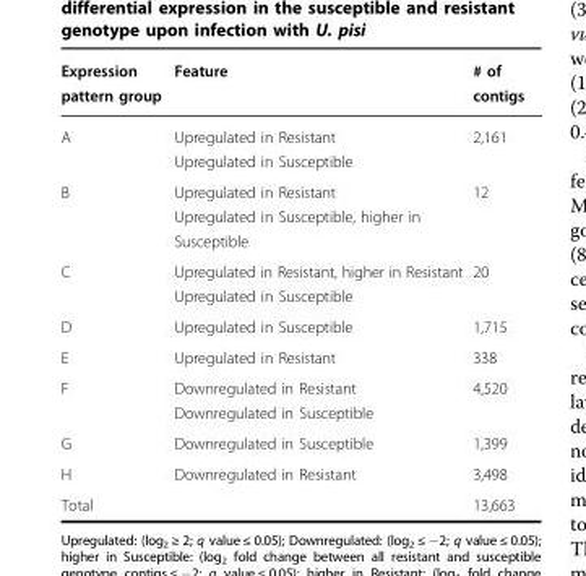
<table><thead><tr><td>Expression pattern group</td><td>Feature</td><td># of contigs</td></tr></thead><tbody><tr><td>A</td><td>Upregulated in Resistant Upregulated in Susceptible</td><td>2,161</td></tr><tr><td>B</td><td>Upregulated in Resistant Upregulated in Susceptible, higher in Susceptible</td><td>12</td></tr><tr><td>C</td><td>Upregulated in Resistant, higher in Resistant Upregulated in Susceptible</td><td>20</td></tr><tr><td>D</td><td>Upregulated in Susceptible</td><td>1,715</td></tr><tr><td>E</td><td>Upregulated in Resistant</td><td>338</td></tr><tr><td>F</td><td>Downregulated in Resistant Downregulated in Susceptible</td><td>4,520</td></tr><tr><td>G</td><td>Downregulated in Susceptible</td><td>1,399</td></tr><tr><td>H</td><td>Downregulated in Resistant</td><td>3,498</td></tr><tr><td>Total</td><td></td><td>13,663</td></tr></tbody></table>